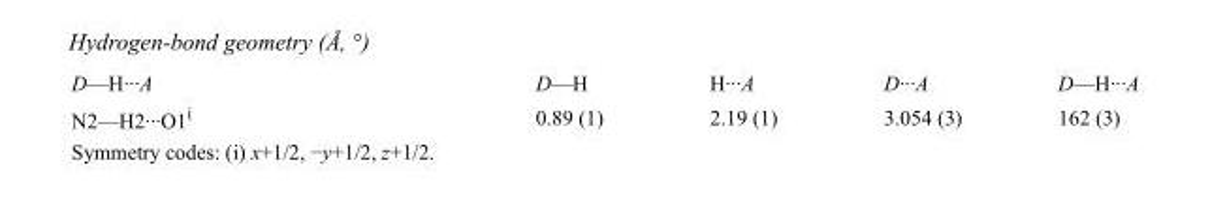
<table><tbody><tr><td>D—H···A</td><td>D—H</td><td>H···A</td><td>D···A</td><td>D—H···A</td></tr><tr><td>N2—H2···O1<sup>i</sup></td><td>0.89 (1)</td><td>2.19 (1)</td><td>3.054 (3)</td><td>162 (3)</td></tr></tbody></table>